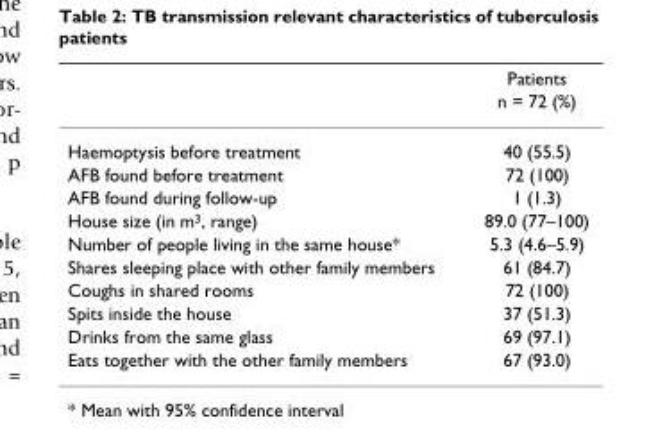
<table><thead><tr><td rowspan="2"></td><td rowspan="2">Patients n = 72 (%)</td></tr><tr></tr></thead><tbody><tr><td>Haemoptysis before treatment</td><td>40 (55.5)</td></tr><tr><td>AFB found before treatment</td><td>72 (100)</td></tr><tr><td>AFB found during follow-up</td><td>1 (1.3)</td></tr><tr><td>House size (in m<sup>3</sup>, range)</td><td>89.0 (77–100)</td></tr><tr><td>Number of people living in the same house*</td><td>5.3 (4.6–5.9)</td></tr><tr><td>Shares sleeping place with other family members</td><td>61 (84.7)</td></tr><tr><td>Coughs in shared rooms</td><td>72 (100)</td></tr><tr><td>Spits inside the house</td><td>37 (51.3)</td></tr><tr><td>Drinks from the same glass</td><td>69 (97.1)</td></tr><tr><td>Eats together with the other family members</td><td>67 (93.0)</td></tr></tbody></table>